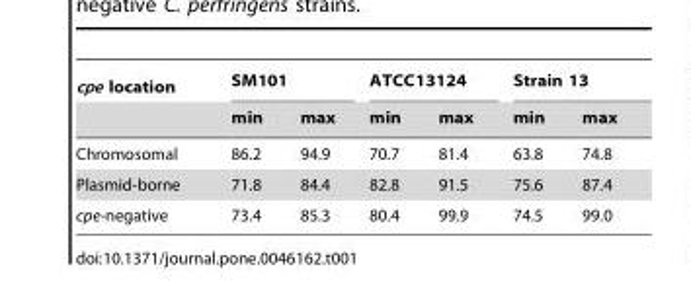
<table><thead><tr><td rowspan="2">cpe location</td><td colspan="2">SM101</td><td colspan="2">ATCC13124</td><td colspan="2">Strain 13</td></tr><tr><td>min</td><td>max</td><td>min</td><td>max</td><td>min</td><td>max</td></tr></thead><tbody><tr><td>Chromosomal</td><td>86.2</td><td>94.9</td><td>70.7</td><td>81.4</td><td>63.8</td><td>74.8</td></tr><tr><td>Plasmid-borne</td><td>71.8</td><td>84.4</td><td>82.8</td><td>91.5</td><td>75.6</td><td>87.4</td></tr><tr><td>cpe-negative</td><td>73.4</td><td>85.3</td><td>80.4</td><td>99.9</td><td>74.5</td><td>99.0</td></tr></tbody></table>